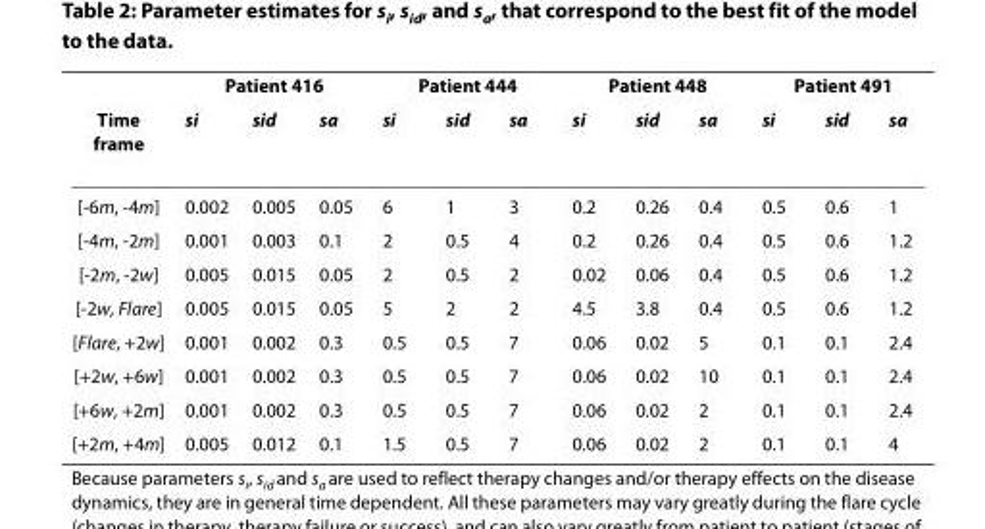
<table><thead><tr><td rowspan="2">Time frame</td><td colspan="3">Patient 416</td><td colspan="3">Patient 444</td><td colspan="3">Patient 448</td><td colspan="3">Patient 491</td></tr><tr><td>s<sub>i</sub></td><td>s<sub>id</sub></td><td>s<sub>a</sub></td><td>s<sub>i</sub></td><td>s<sub>id</sub></td><td>s<sub>a</sub></td><td>s<sub>i</sub></td><td>s<sub>id</sub></td><td>s<sub>a</sub></td><td>s<sub>i</sub></td><td>s<sub>id</sub></td><td>s<sub>a</sub></td></tr></thead><tbody><tr><td>[-6m, -4m]</td><td>0.002</td><td>0.005</td><td>0.05</td><td>6</td><td>1</td><td>3</td><td>0.2</td><td>0.26</td><td>0.4</td><td>0.5</td><td>0.6</td><td>1</td></tr><tr><td>[-4m, -2m]</td><td>0.001</td><td>0.003</td><td>0.1</td><td>2</td><td>0.5</td><td>4</td><td>0.2</td><td>0.26</td><td>0.4</td><td>0.5</td><td>0.6</td><td>1.2</td></tr><tr><td>[-2m, -2w]</td><td>0.005</td><td>0.015</td><td>0.05</td><td>2</td><td>0.5</td><td>2</td><td>0.02</td><td>0.06</td><td>0.4</td><td>0.5</td><td>0.6</td><td>1.2</td></tr><tr><td>[-2w, Flare]</td><td>0.005</td><td>0.015</td><td>0.05</td><td>5</td><td>2</td><td>2</td><td>4.5</td><td>3.8</td><td>0.4</td><td>0.5</td><td>0.6</td><td>1.2</td></tr><tr><td>[Flare, +2w]</td><td>0.001</td><td>0.002</td><td>0.3</td><td>0.5</td><td>0.5</td><td>7</td><td>0.06</td><td>0.02</td><td>5</td><td>0.1</td><td>0.1</td><td>2.4</td></tr><tr><td>[+2w, +6w]</td><td>0.001</td><td>0.002</td><td>0.3</td><td>0.5</td><td>0.5</td><td>7</td><td>0.06</td><td>0.02</td><td>10</td><td>0.1</td><td>0.1</td><td>2.4</td></tr><tr><td>[+6w, +2m]</td><td>0.001</td><td>0.002</td><td>0.3</td><td>0.5</td><td>0.5</td><td>7</td><td>0.06</td><td>0.02</td><td>2</td><td>0.1</td><td>0.1</td><td>2.4</td></tr><tr><td>[+2m, +4m]</td><td>0.005</td><td>0.012</td><td>0.1</td><td>1.5</td><td>0.5</td><td>7</td><td>0.06</td><td>0.02</td><td>2</td><td>0.1</td><td>0.1</td><td>4</td></tr></tbody></table>